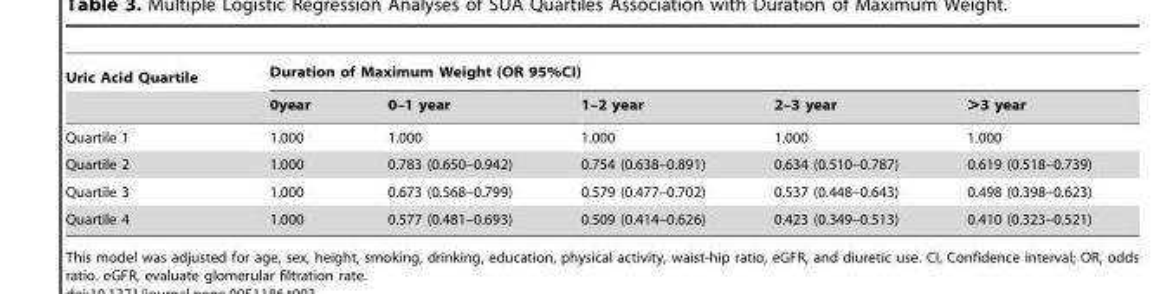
<table><thead><tr><td rowspan="2">Uric Acid Quartile</td><td colspan="5">Duration of Maximum Weight (OR 95%CI)</td></tr><tr><td>0year</td><td>0–1 year</td><td>1–2 year</td><td>2–3 year</td><td>&gt;3 year</td></tr></thead><tbody><tr><td>Quartile 1</td><td>1.000</td><td>1.000</td><td>1.000</td><td>1.000</td><td>1.000</td></tr><tr><td>Quartile 2</td><td>1.000</td><td>0.783 (0.650–0.942)</td><td>0.754 (0.638–0.891)</td><td>0.634 (0.510–0.787)</td><td>0.619 (0.518–0.739)</td></tr><tr><td>Quartile 3</td><td>1.000</td><td>0.673 (0.568–0.799)</td><td>0.579 (0.477–0.702)</td><td>0.537 (0.448–0.643)</td><td>0.498 (0.398–0.623)</td></tr><tr><td>Quartile 4</td><td>1.000</td><td>0.577 (0.481–0.693)</td><td>0.509 (0.414–0.626)</td><td>0.423 (0.349–0.513)</td><td>0.410 (0.323–0.521)</td></tr></tbody></table>